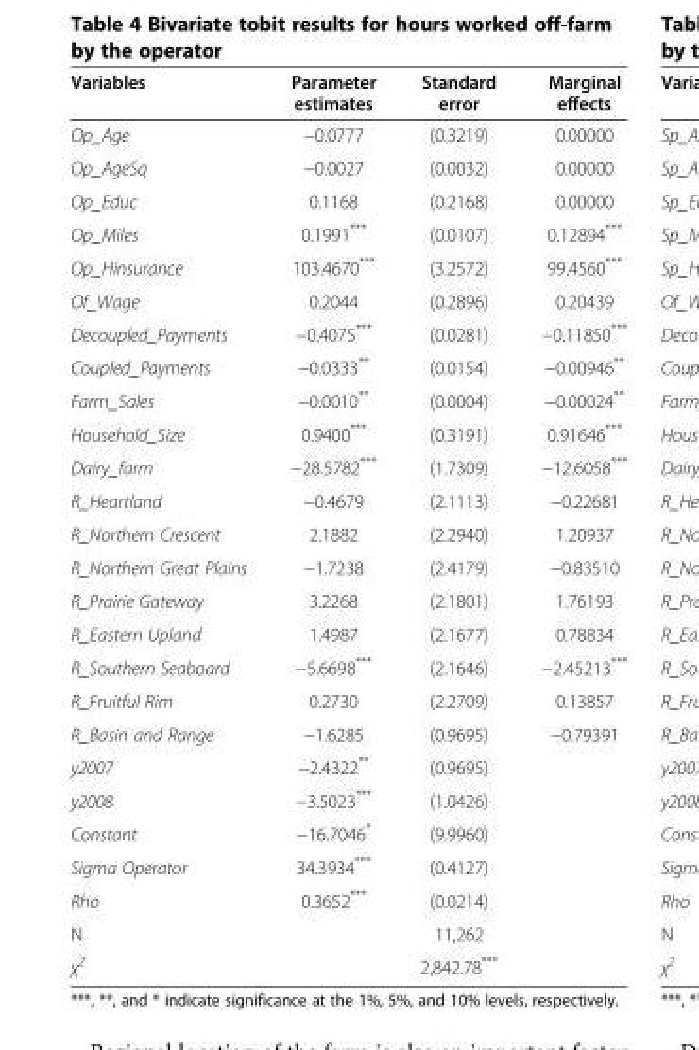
<table><thead><tr><td>Variables</td><td>Parameter estimates</td><td>Standard error</td><td>Marginal effects</td></tr></thead><tbody><tr><td>Op_Age</td><td>−0.0777</td><td>(0.3219)</td><td>0.00000</td></tr><tr><td>Op_AgeSq</td><td>−0.0027</td><td>(0.0032)</td><td>0.00000</td></tr><tr><td>Op_Educ</td><td>0.1168</td><td>(0.2168)</td><td>0.00000</td></tr><tr><td>Op_Miles</td><td>0.1991***</td><td>(0.0107)</td><td>0.12894***</td></tr><tr><td>Op_Hinsurance</td><td>103.4670***</td><td>(3.2572)</td><td>99.4560***</td></tr><tr><td>Of_Wage</td><td>0.2044</td><td>(0.2896)</td><td>0.20439</td></tr><tr><td>Decoupled_Payments</td><td>−0.4075***</td><td>(0.0281)</td><td>−0.11850***</td></tr><tr><td>Coupled_Payments</td><td>−0.0333**</td><td>(0.0154)</td><td>−0.00946**</td></tr><tr><td>Farm_Sales</td><td>−0.0010**</td><td>(0.0004)</td><td>−0.00024**</td></tr><tr><td>Household_Size</td><td>0.9400***</td><td>(0.3191)</td><td>0.91646***</td></tr><tr><td>Dairy_farm</td><td>−28.5782***</td><td>(1.7309)</td><td>−12.6058***</td></tr><tr><td>R_Heartland</td><td>−0.4679</td><td>(2.1113)</td><td>−0.22681</td></tr><tr><td>R_Northern Crescent</td><td>2.1882</td><td>(2.2940)</td><td>1.20937</td></tr><tr><td>R_Northern Great Plains</td><td>−1.7238</td><td>(2.4179)</td><td>−0.83510</td></tr><tr><td>R_Prairie Gateway</td><td>3.2268</td><td>(2.1801)</td><td>1.76193</td></tr><tr><td>R_Eastern Upland</td><td>1.4987</td><td>(2.1677)</td><td>0.78834</td></tr><tr><td>R_Southern Seaboard</td><td>−5.6698***</td><td>(2.1646)</td><td>−2.45213***</td></tr><tr><td>R_Fruitful Rim</td><td>0.2730</td><td>(2.2709)</td><td>0.13857</td></tr><tr><td>R_Basin and Range</td><td>−1.6285</td><td>(0.9695)</td><td>−0.79391</td></tr><tr><td>y2007</td><td>−2.4322**</td><td>(0.9695)</td><td></td></tr><tr><td>y2008</td><td>−3.5023***</td><td>(1.0426)</td><td></td></tr><tr><td>Constant</td><td>−16.7046*</td><td>(9.9960)</td><td></td></tr><tr><td>Sigma Operator</td><td>34.3934***</td><td>(0.4127)</td><td></td></tr><tr><td>Rho</td><td>0.3652***</td><td>(0.0214)</td><td></td></tr><tr><td>N</td><td></td><td>11,262</td><td></td></tr><tr><td>χ<sup>2</sup></td><td></td><td>2,842.78***</td><td></td></tr></tbody></table>